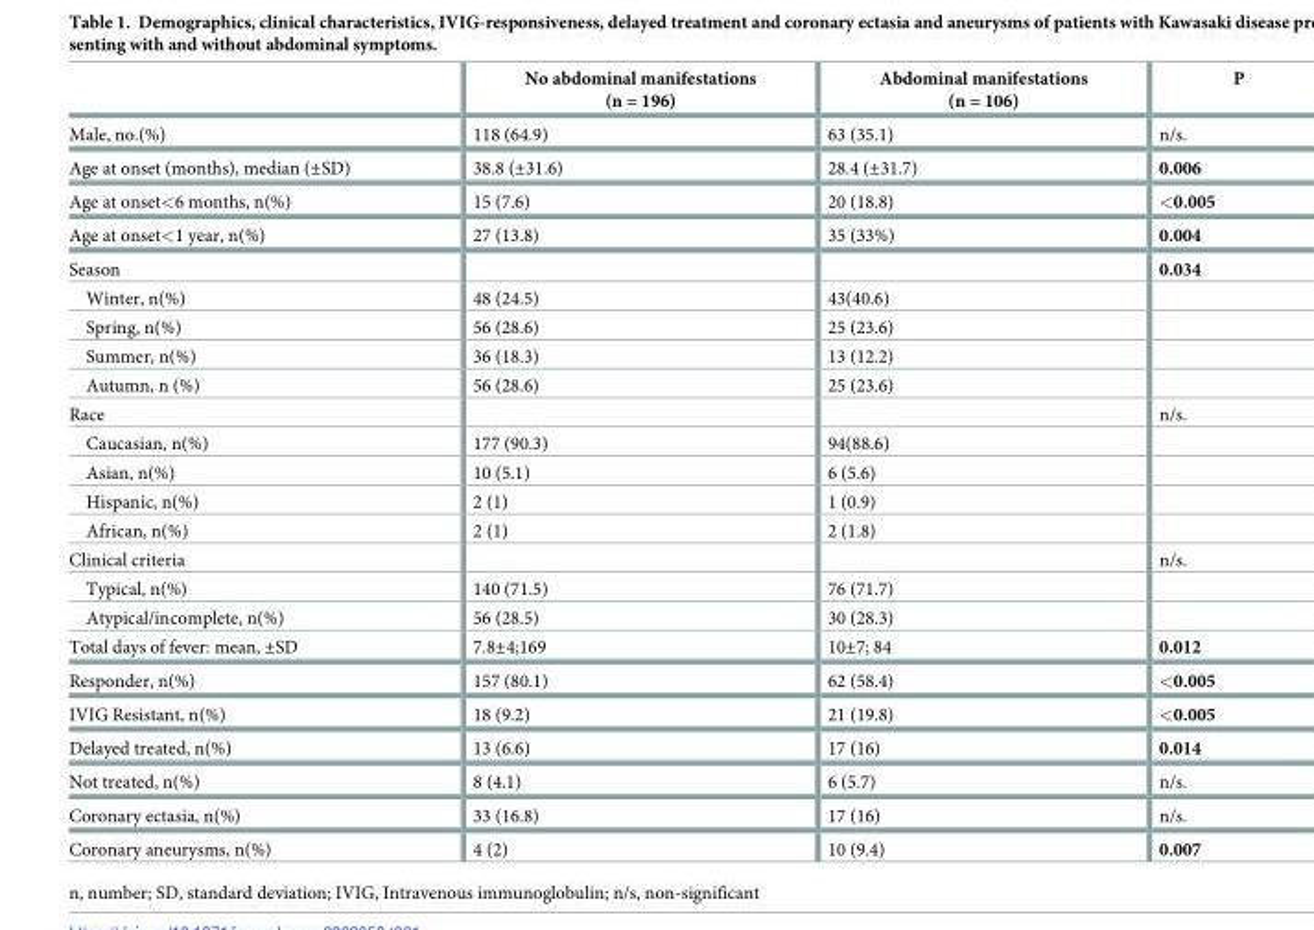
<table><thead><tr><td></td><td>No abdominal manifestations (n = 196)</td><td>Abdominal manifestations (n = 106)</td><td>P</td></tr></thead><tbody><tr><td>Male, no.(%)</td><td>118 (64.9)</td><td>63 (35.1)</td><td>n/s.</td></tr><tr><td>Age at onset (months), median (±SD)</td><td>38.8 (±31.6)</td><td>28.4 (±31.7)</td><td>0.006</td></tr><tr><td>Age at onset&lt;6 months, n(%)</td><td>15 (7.6)</td><td>20 (18.8)</td><td>&lt;0.005</td></tr><tr><td>Age at onset&lt;1 year, n(%)</td><td>27 (13.8)</td><td>35 (33%)</td><td>0.004</td></tr><tr><td>Season</td><td></td><td></td><td>0.034</td></tr><tr><td>Winter, n(%)</td><td>48 (24.5)</td><td>43(40.6)</td><td></td></tr><tr><td>Spring, n(%)</td><td>56 (28.6)</td><td>25 (23.6)</td><td></td></tr><tr><td>Summer, n(%)</td><td>36 (18.3)</td><td>13 (12.2)</td><td></td></tr><tr><td>Autumn, n (%)</td><td>56 (28.6)</td><td>25 (23.6)</td><td></td></tr><tr><td>Race</td><td></td><td></td><td>n/s.</td></tr><tr><td>Caucasian, n(%)</td><td>177 (90.3)</td><td>94(88.6)</td><td></td></tr><tr><td>Asian, n(%)</td><td>10 (5.1)</td><td>6 (5.6)</td><td></td></tr><tr><td>Hispanic, n(%)</td><td>2 (1)</td><td>1 (0.9)</td><td></td></tr><tr><td>African, n(%)</td><td>2 (1)</td><td>2 (1.8)</td><td></td></tr><tr><td>Clinical criteria</td><td></td><td></td><td>n/s.</td></tr><tr><td>Typical, n(%)</td><td>140 (71.5)</td><td>76 (71.7)</td><td></td></tr><tr><td>Atypical/incomplete, n(%)</td><td>56 (28.5)</td><td>30 (28.3)</td><td></td></tr><tr><td>Total days of fever: mean, ±SD</td><td>7.8±4;169</td><td>10±7; 84</td><td>0.012</td></tr><tr><td>Responder, n(%)</td><td>157 (80.1)</td><td>62 (58.4)</td><td>&lt;0.005</td></tr><tr><td>IVIG Resistant, n(%)</td><td>18 (9.2)</td><td>21 (19.8)</td><td>&lt;0.005</td></tr><tr><td>Delayed treated, n(%)</td><td>13 (6.6)</td><td>17 (16)</td><td>0.014</td></tr><tr><td>Not treated, n(%)</td><td>8 (4.1)</td><td>6 (5.7)</td><td>n/s.</td></tr><tr><td>Coronary ectasia, n(%)</td><td>33 (16.8)</td><td>17 (16)</td><td>n/s.</td></tr><tr><td>Coronary aneurysms, n(%)</td><td>4 (2)</td><td>10 (9.4)</td><td>0.007</td></tr></tbody></table>